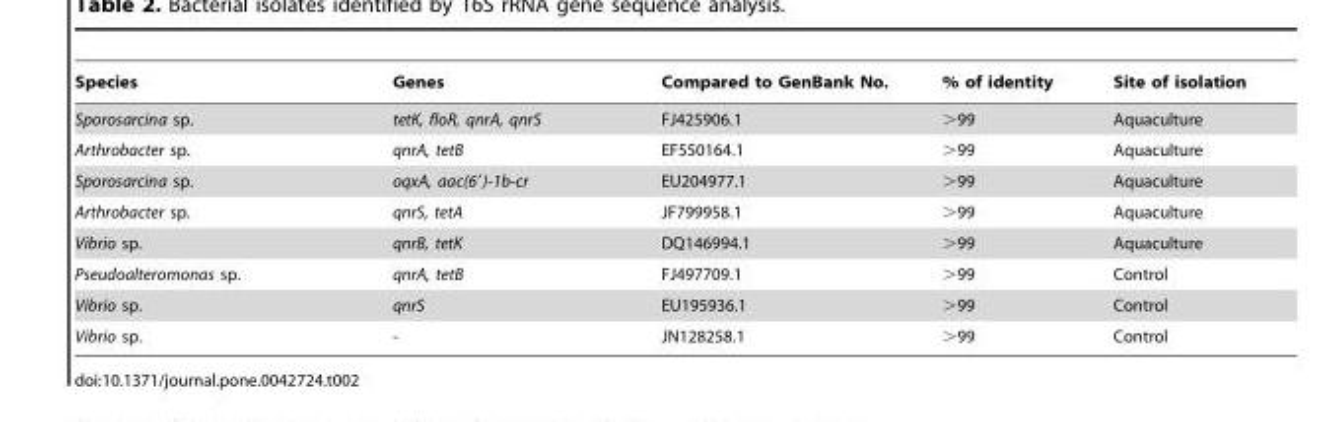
<table><thead><tr><td>Species</td><td>Genes</td><td>Compared to GenBank No.</td><td>% of identity</td><td>Site of isolation</td></tr></thead><tbody><tr><td>Sporosarcina sp.</td><td>tetK, floR, qnrA, qnrS</td><td>FJ425906.1</td><td>&gt;99</td><td>Aquaculture</td></tr><tr><td>Arthrobacter sp.</td><td>qnrA, tetB</td><td>EF550164.1</td><td>&gt;99</td><td>Aquaculture</td></tr><tr><td>Sporosarcina sp.</td><td>oqxA, aac(6′)-1b-cr</td><td>EU204977.1</td><td>&gt;99</td><td>Aquaculture</td></tr><tr><td>Arthrobacter sp.</td><td>qnrS, tetA</td><td>JF799958.1</td><td>&gt;99</td><td>Aquaculture</td></tr><tr><td>Vibrio sp.</td><td>qnrB, tetK</td><td>DQ146994.1</td><td>&gt;99</td><td>Aquaculture</td></tr><tr><td>Pseudoalteromonas sp.</td><td>qnrA, tetB</td><td>FJ497709.1</td><td>&gt;99</td><td>Control</td></tr><tr><td>Vibrio sp.</td><td>qnrS</td><td>EU195936.1</td><td>&gt;99</td><td>Control</td></tr><tr><td>Vibrio sp.</td><td>-</td><td>JN128258.1</td><td>&gt;99</td><td>Control</td></tr></tbody></table>